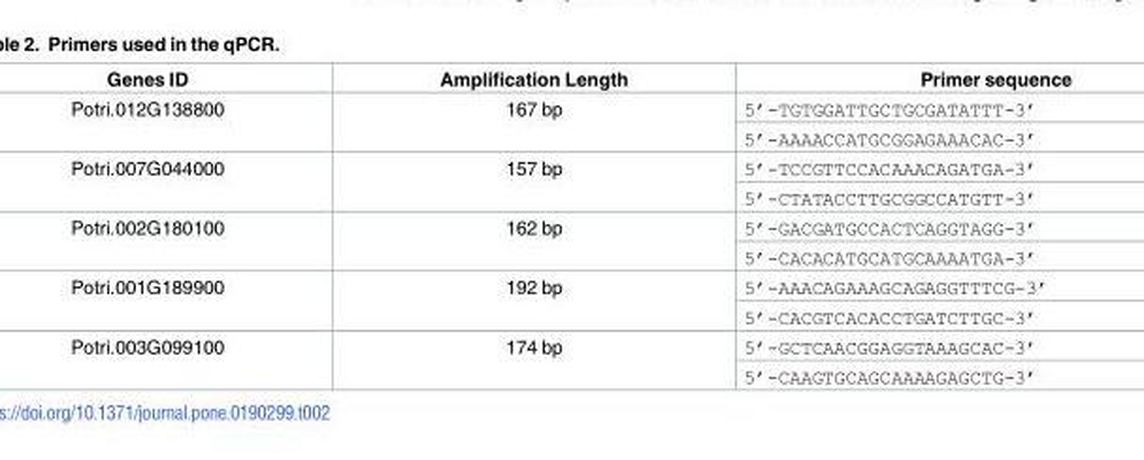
<table><thead><tr><td>Genes ID</td><td>Amplification Length</td><td>Primer sequence</td></tr></thead><tbody><tr><td rowspan="2">Potri.012G138800</td><td rowspan="2">167 bp</td><td>5’-TGTGGATTGCTGCGATATTT-3’</td></tr><tr><td>5’-AAAACCATGCGGAGAAACAC-3’</td></tr><tr><td rowspan="2">Potri.007G044000</td><td rowspan="2">157 bp</td><td>5’-TCCGTTCCACAAACAGATGA-3’</td></tr><tr><td>5’-CTATACCTTGCGGCCATGTT-3’</td></tr><tr><td rowspan="2">Potri.002G180100</td><td rowspan="2">162 bp</td><td>5’-GACGATGCCACTCAGGTAGG-3’</td></tr><tr><td>5’-CACACATGCATGCAAAATGA-3’</td></tr><tr><td rowspan="2">Potri.001G189900</td><td rowspan="2">192 bp</td><td>5’-AAACAGAAAGCAGAGGTTTCG-3’</td></tr><tr><td>5’-CACGTCACACCTGATCTTGC-3’</td></tr><tr><td rowspan="2">Potri.003G099100</td><td rowspan="2">174 bp</td><td>5’-GCTCAACGGAGGTAAAGCAC-3’</td></tr><tr><td>5’-CAAGTGCAGCAAAAGAGCTG-3’</td></tr></tbody></table>